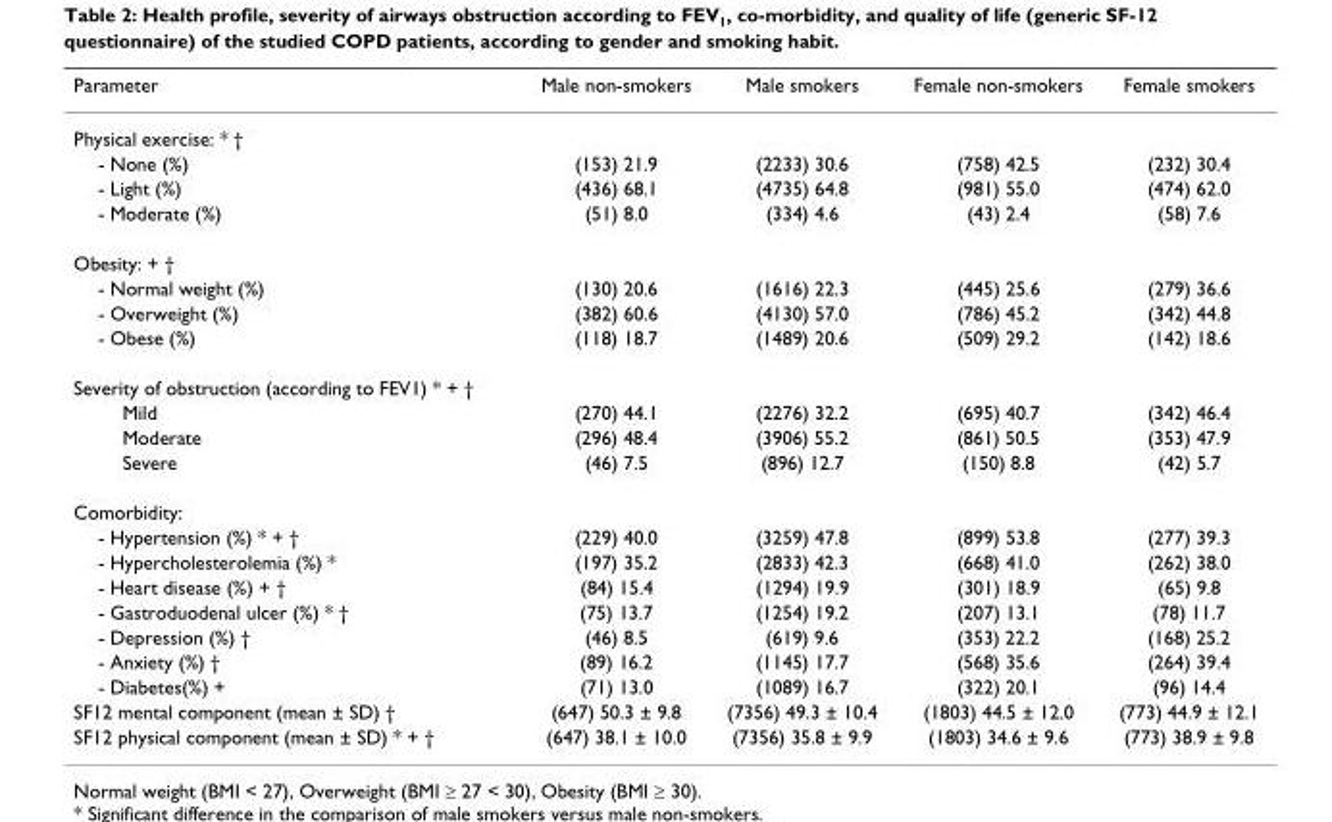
<table><thead><tr><td>Parameter</td><td>Male non-smokers</td><td>Male smokers</td><td>Female non-smokers</td><td>Female smokers</td></tr></thead><tbody><tr><td colspan="5">Physical exercise: * †</td></tr><tr><td>- None (%)</td><td>(153) 21.9</td><td>(2233) 30.6</td><td>(758) 42.5</td><td>(232) 30.4</td></tr><tr><td>- Light (%)</td><td>(436) 68.1</td><td>(4735) 64.8</td><td>(981) 55.0</td><td>(474) 62.0</td></tr><tr><td>- Moderate (%)</td><td>(51) 8.0</td><td>(334) 4.6</td><td>(43) 2.4</td><td>(58) 7.6</td></tr><tr><td colspan="5">Obesity: + †</td></tr><tr><td>- Normal weight (%)</td><td>(130) 20.6</td><td>(1616) 22.3</td><td>(445) 25.6</td><td>(279) 36.6</td></tr><tr><td>- Overweight (%)</td><td>(382) 60.6</td><td>(4130) 57.0</td><td>(786) 45.2</td><td>(342) 44.8</td></tr><tr><td>- Obese (%)</td><td>(118) 18.7</td><td>(1489) 20.6</td><td>(509) 29.2</td><td>(142) 18.6</td></tr><tr><td colspan="5">Severity of obstruction (according to FEV1) * + †</td></tr><tr><td>Mild</td><td>(270) 44.1</td><td>(2276) 32.2</td><td>(695) 40.7</td><td>(342) 46.4</td></tr><tr><td>Moderate</td><td>(296) 48.4</td><td>(3906) 55.2</td><td>(861) 50.5</td><td>(353) 47.9</td></tr><tr><td>Severe</td><td>(46) 7.5</td><td>(896) 12.7</td><td>(150) 8.8</td><td>(42) 5.7</td></tr><tr><td colspan="5">Comorbidity:</td></tr><tr><td>- Hypertension (%) * + †</td><td>(229) 40.0</td><td>(3259) 47.8</td><td>(899) 53.8</td><td>(277) 39.3</td></tr><tr><td>- Hypercholesterolemia (%) *</td><td>(197) 35.2</td><td>(2833) 42.3</td><td>(668) 41.0</td><td>(262) 38.0</td></tr><tr><td>- Heart disease (%) + †</td><td>(84) 15.4</td><td>(1294) 19.9</td><td>(301) 18.9</td><td>(65) 9.8</td></tr><tr><td>- Gastroduodenal ulcer (%) * †</td><td>(75) 13.7</td><td>(1254) 19.2</td><td>(207) 13.1</td><td>(78) 11.7</td></tr><tr><td>- Depression (%) †</td><td>(46) 8.5</td><td>(619) 9.6</td><td>(353) 22.2</td><td>(168) 25.2</td></tr><tr><td>- Anxiety (%) †</td><td>(89) 16.2</td><td>(1145) 17.7</td><td>(568) 35.6</td><td>(264) 39.4</td></tr><tr><td>- Diabetes(%) +</td><td>(71) 13.0</td><td>(1089) 16.7</td><td>(322) 20.1</td><td>(96) 14.4</td></tr><tr><td>SF12 mental component (mean ± SD) †</td><td>(647) 50.3 ± 9.8</td><td>(7356) 49.3 ± 10.4</td><td>(1803) 44.5 ± 12.0</td><td>(773) 44.9 ± 12.1</td></tr><tr><td>SF12 physical component (mean ± SD) * + †</td><td>(647) 38.1 ± 10.0</td><td>(7356) 35.8 ± 9.9</td><td>(1803) 34.6 ± 9.6</td><td>(773) 38.9 ± 9.8</td></tr></tbody></table>